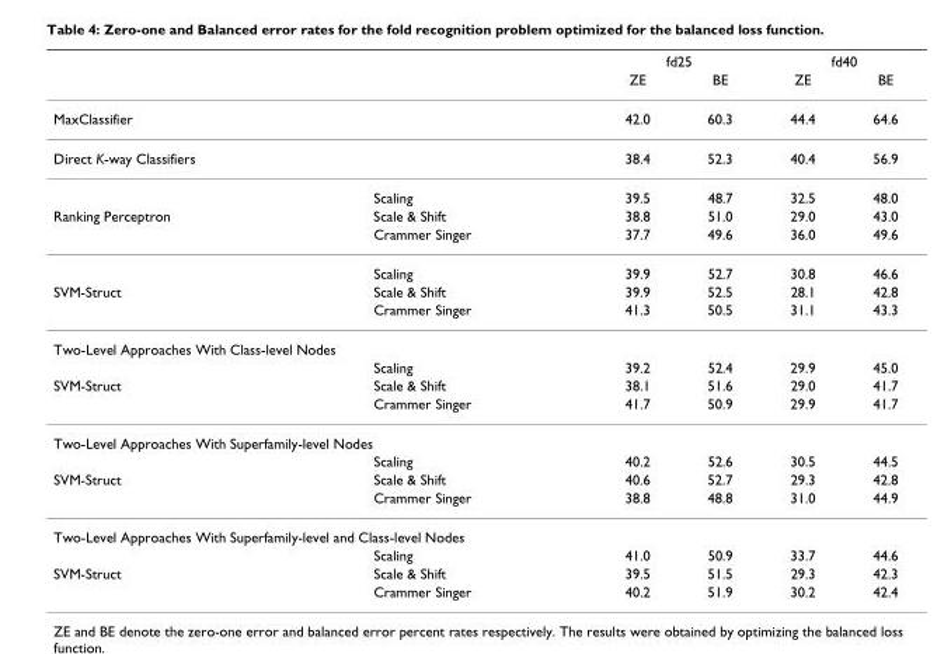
<table><thead><tr><td rowspan="2"></td><td rowspan="2"></td><td colspan="2">fd25</td><td colspan="2">fd40</td></tr><tr><td>ZE</td><td>BE</td><td>ZE</td><td>BE</td></tr></thead><tbody><tr><td>MaxClassifier</td><td></td><td>42.0</td><td>60.3</td><td>44.4</td><td>64.6</td></tr><tr><td rowspan="2">Direct K-way Classifiers</td><td></td><td>38.4</td><td>52.3</td><td>40.4</td><td>56.9</td></tr><tr><td>Scaling</td><td>39.5</td><td>48.7</td><td>32.5</td><td>48.0</td></tr><tr><td rowspan="3">Ranking Perceptron</td><td>Scale &amp; Shift</td><td>38.8</td><td>51.0</td><td>29.0</td><td>43.0</td></tr><tr><td>Crammer Singer</td><td>37.7</td><td>49.6</td><td>36.0</td><td>49.6</td></tr><tr><td>Scaling</td><td>39.9</td><td>52.7</td><td>30.8</td><td>46.6</td></tr><tr><td rowspan="2">SVM-Struct</td><td>Scale &amp; Shift</td><td>39.9</td><td>52.5</td><td>28.1</td><td>42.8</td></tr><tr><td>Crammer Singer</td><td>41.3</td><td>50.5</td><td>31.1</td><td>43.3</td></tr><tr><td colspan="6">Two-Level Approaches With Class-level Nodes</td></tr><tr><td></td><td>Scaling</td><td>39.2</td><td>52.4</td><td>29.9</td><td>45.0</td></tr><tr><td rowspan="2">SVM-Struct</td><td>Scale &amp; Shift</td><td>38.1</td><td>51.6</td><td>29.0</td><td>41.7</td></tr><tr><td>Crammer Singer</td><td>41.7</td><td>50.9</td><td>29.9</td><td>41.7</td></tr><tr><td colspan="6">Two-Level Approaches With Superfamily-level Nodes</td></tr><tr><td></td><td>Scaling</td><td>40.2</td><td>52.6</td><td>30.5</td><td>44.5</td></tr><tr><td rowspan="2">SVM-Struct</td><td>Scale &amp; Shift</td><td>40.6</td><td>52.7</td><td>29.3</td><td>42.8</td></tr><tr><td>Crammer Singer</td><td>38.8</td><td>48.8</td><td>31.0</td><td>44.9</td></tr><tr><td colspan="6">Two-Level Approaches With Superfamily-level and Class-level Nodes</td></tr><tr><td></td><td>Scaling</td><td>41.0</td><td>50.9</td><td>33.7</td><td>44.6</td></tr><tr><td rowspan="2">SVM-Struct</td><td>Scale &amp; Shift</td><td>39.5</td><td>51.5</td><td>29.3</td><td>42.3</td></tr><tr><td>Crammer Singer</td><td>40.2</td><td>51.9</td><td>30.2</td><td>42.4</td></tr></tbody></table>